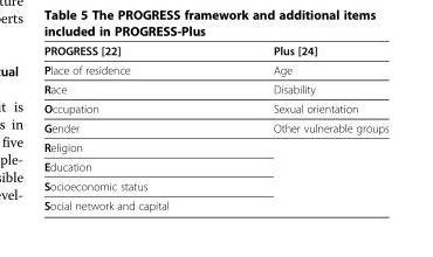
<table><thead><tr><td>PROGRESS [22]</td><td>Plus [24]</td></tr></thead><tbody><tr><td>Place of residence</td><td>Age</td></tr><tr><td>Race</td><td>Disability</td></tr><tr><td>Occupation</td><td>Sexual orientation</td></tr><tr><td>Gender</td><td>Other vulnerable groups</td></tr><tr><td colspan="2">Religion</td></tr><tr><td colspan="2">Education</td></tr><tr><td colspan="2">Socioeconomic status</td></tr><tr><td>Social network and capital</td><td></td></tr></tbody></table>